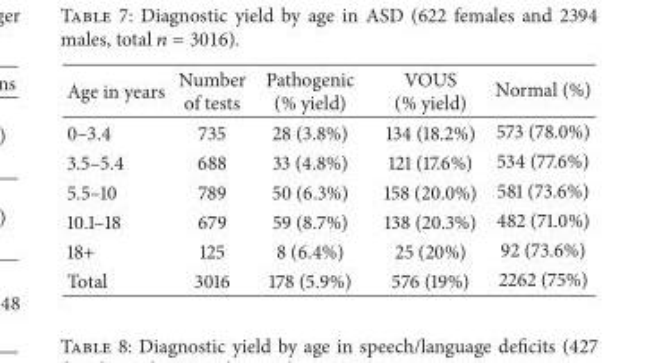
<table><thead><tr><td>Age in years</td><td>Number of tests</td><td>Pathogenic (% yield)</td><td>VOUS (% yield)</td><td>Normal (%)</td></tr></thead><tbody><tr><td>0–3.4</td><td>735</td><td>28 (3.8%)</td><td>134 (18.2%)</td><td>573 (78.0%)</td></tr><tr><td>3.5–5.4</td><td>688</td><td>33 (4.8%)</td><td>121 (17.6%)</td><td>534 (77.6%)</td></tr><tr><td>5.5–10</td><td>789</td><td>50 (6.3%)</td><td>158 (20.0%)</td><td>581 (73.6%)</td></tr><tr><td>10.1–18</td><td>679</td><td>59 (8.7%)</td><td>138 (20.3%)</td><td>482 (71.0%)</td></tr><tr><td>18+</td><td>125</td><td>8 (6.4%)</td><td>25 (20%)</td><td>92 (73.6%)</td></tr><tr><td>Total</td><td>3016</td><td>178 (5.9%)</td><td>576 (19%)</td><td>2262 (75%)</td></tr></tbody></table>